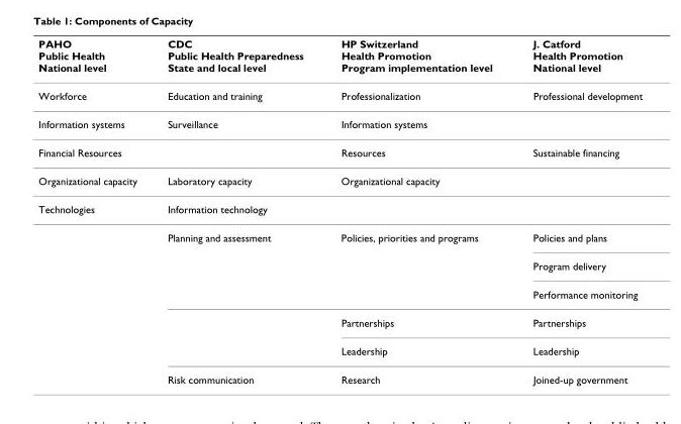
<table><thead><tr><td>PAHO Public Health National level</td><td>CDC Public Health Preparedness State and local level</td><td>HP Switzerland Health Promotion Program implementation level</td><td>J. Catford Health Promotion National level</td></tr></thead><tbody><tr><td>Workforce</td><td>Education and training</td><td>Professionalization</td><td>Professional development</td></tr><tr><td>Information systems</td><td>Surveillance</td><td>Information systems</td><td></td></tr><tr><td>Financial Resources</td><td></td><td>Resources</td><td>Sustainable financing</td></tr><tr><td>Organizational capacity</td><td>Laboratory capacity</td><td>Organizational capacity</td><td></td></tr><tr><td rowspan="7">Technologies</td><td>Information technology</td><td></td><td></td></tr><tr><td>Planning and assessment</td><td>Policies, priorities and programs</td><td>Policies and plans</td></tr><tr><td></td><td></td><td>Program delivery</td></tr><tr><td></td><td></td><td>Performance monitoring</td></tr><tr><td></td><td>Partnerships</td><td>Partnerships</td></tr><tr><td></td><td>Leadership</td><td>Leadership</td></tr><tr><td>Risk communication</td><td>Research</td><td>Joined-up government</td></tr></tbody></table>